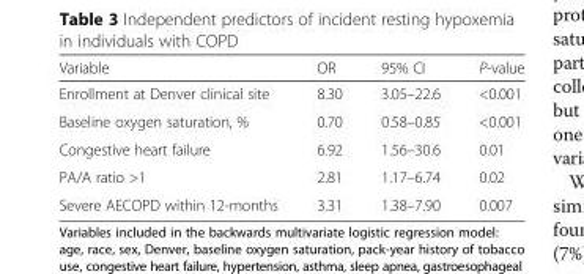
<table><thead><tr><td>Variable</td><td>OR</td><td>95% CI</td><td>P-value</td></tr></thead><tbody><tr><td>Enrollment at Denver clinical site</td><td>8.30</td><td>3.05–22.6</td><td>&lt;0.001</td></tr><tr><td>Baseline oxygen saturation, %</td><td>0.70</td><td>0.58–0.85</td><td>&lt;0.001</td></tr><tr><td>Congestive heart failure</td><td>6.92</td><td>1.56–30.6</td><td>0.01</td></tr><tr><td>PA/A ratio &gt;1</td><td>2.81</td><td>1.17–6.74</td><td>0.02</td></tr><tr><td>Severe AECOPD within 12-months</td><td>3.31</td><td>1.38–7.90</td><td>0.007</td></tr></tbody></table>